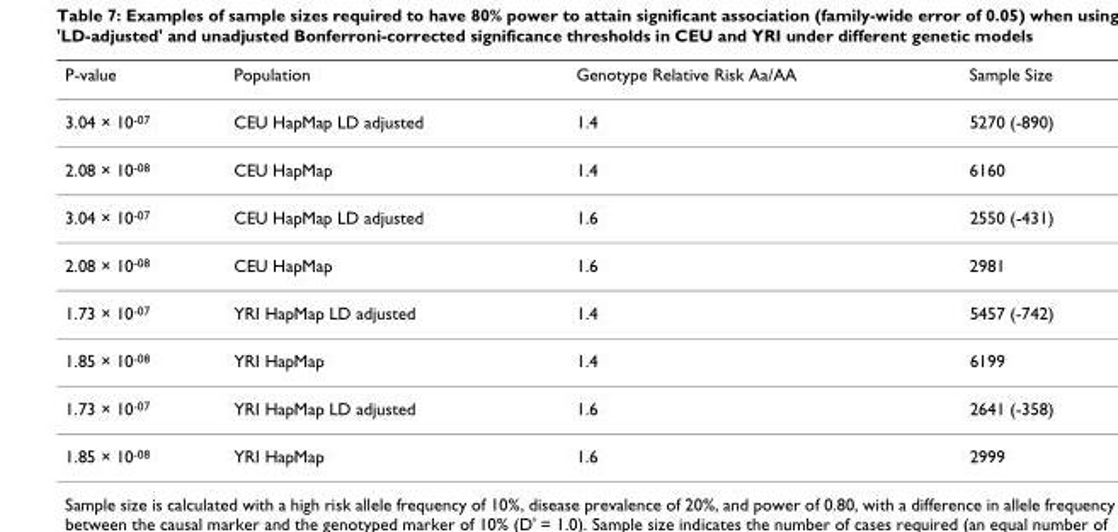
<table><thead><tr><td>P-value</td><td>Population</td><td>Genotype Relative Risk Aa/AA</td><td>Sample Size</td></tr></thead><tbody><tr><td>3.04 × 10<sup>-07</sup></td><td>CEU HapMap LD adjusted</td><td>1.4</td><td>5270 (-890)</td></tr><tr><td>2.08 × 10<sup>-08</sup></td><td>CEU HapMap</td><td>1.4</td><td>6160</td></tr><tr><td>3.04 × 10<sup>-07</sup></td><td>CEU HapMap LD adjusted</td><td>1.6</td><td>2550 (-431)</td></tr><tr><td>2.08 × 10<sup>-08</sup></td><td>CEU HapMap</td><td>1.6</td><td>2981</td></tr><tr><td>1.73 × 10<sup>-07</sup></td><td>YRI HapMap LD adjusted</td><td>1.4</td><td>5457 (-742)</td></tr><tr><td>1.85 × 10<sup>-08</sup></td><td>YRI HapMap</td><td>1.4</td><td>6199</td></tr><tr><td>1.73 × 10<sup>-07</sup></td><td>YRI HapMap LD adjusted</td><td>1.6</td><td>2641 (-358)</td></tr><tr><td>1.85 × 10<sup>-08</sup></td><td>YRI HapMap</td><td>1.6</td><td>2999</td></tr></tbody></table>